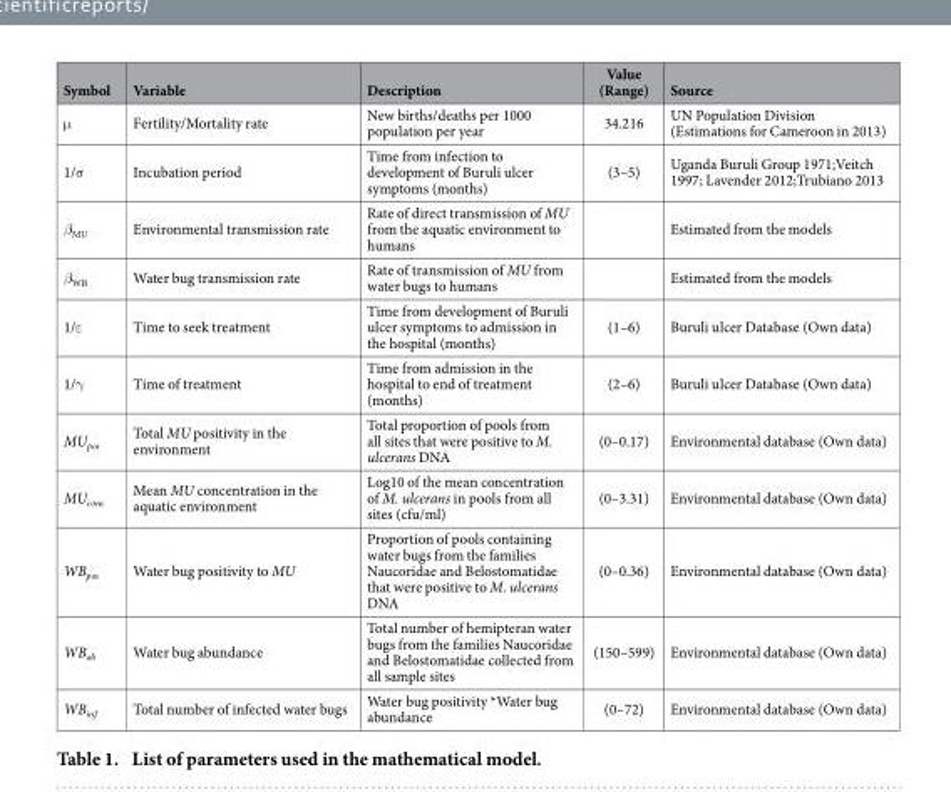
<table><thead><tr><td>Symbol</td><td>Variable</td><td>Description</td><td>Value (Range)</td><td>Source</td></tr></thead><tbody><tr><td>μ</td><td>Fertility/Mortality rate</td><td>New births/deaths per 1000 population per year</td><td>34.216</td><td>UN Population Division (Estimations for Cameroon in 2013)</td></tr><tr><td>1/σ</td><td>Incubation period</td><td>Time from infection to development of Buruli ulcer symptoms (months)</td><td>(3–5)</td><td>Uganda Buruli Group 1971;Veitch 1997; Lavender 2012;Trubiano 2013</td></tr><tr><td>β<sub>MU</sub></td><td>Environmental transmission rate</td><td>Rate of direct transmission of MU from the aquatic environment to humans</td><td></td><td>Estimated from the models</td></tr><tr><td>β<sub>WB</sub></td><td>Water bug transmission rate</td><td>Rate of transmission of MU from water bugs to humans</td><td></td><td>Estimated from the models</td></tr><tr><td>1/ε</td><td>Time to seek treatment</td><td>Time from development of Buruli ulcer symptoms to admission in the hospital (months)</td><td>(1–6)</td><td>Buruli ulcer Database (Own data)</td></tr><tr><td>1/γ</td><td>Time of treatment</td><td>Time from admission in the hospital to end of treatment (months)</td><td>(2–6)</td><td>Buruli ulcer Database (Own data)</td></tr><tr><td>MU<sub>pos</sub></td><td>Total MU positivity in the environment</td><td>Total proportion of pools from all sites that were positive to M. ulcerans DNA</td><td>(0–0.17)</td><td>Environmental database (Own data)</td></tr><tr><td>MU<sub>conc</sub></td><td>Mean MU concentration in the aquatic environment</td><td>Log10 of the mean concentration of M. ulcerans in pools from all sites (cfu/ml)</td><td>(0–3.31)</td><td>Environmental database (Own data)</td></tr><tr><td>WB<sub>pos</sub></td><td>Water bug positivity to MU</td><td>Proportion of pools containing water bugs from the families Naucoridae and Belostomatidae that were positive to M. ulcerans DNA</td><td>(0–0.36)</td><td>Environmental database (Own data)</td></tr><tr><td>WB<sub>ab</sub></td><td>Water bug abundance</td><td>Total number of hemipteran water bugs from the families Naucoridae and Belostomatidae collected from all sample sites</td><td>(150–599)</td><td>Environmental database (Own data)</td></tr><tr><td>WB<sub>inf</sub></td><td>Total number of infected water bugs</td><td>Water bug positivity *Water bug abundance</td><td>(0–72)</td><td>Environmental database (Own data)</td></tr></tbody></table>